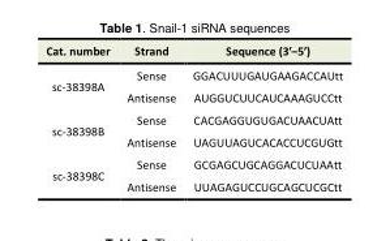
<table><tbody><tr><td>Cat. number</td><td>Strand</td><td>Sequence (3ʹ–5ʹ)</td></tr><tr><td rowspan="2">sc-38398A</td><td>Sense</td><td>GGACUUUGAUGAAGACCAUtt</td></tr><tr><td>Antisense</td><td>AUGGUCUUCAUCAAAGUCCtt</td></tr><tr><td rowspan="2">sc-38398B</td><td>Sense</td><td>CACGAGGUGUGACUAACUAtt</td></tr><tr><td>Antisense</td><td>UAGUUAGUCACACCUCGUGtt</td></tr><tr><td rowspan="2">sc-38398C</td><td>Sense</td><td>GCGAGCUGCAGGACUCUAAtt</td></tr><tr><td>Antisense</td><td>UUAGAGUCCUGCAGCUCGCtt</td></tr></tbody></table>